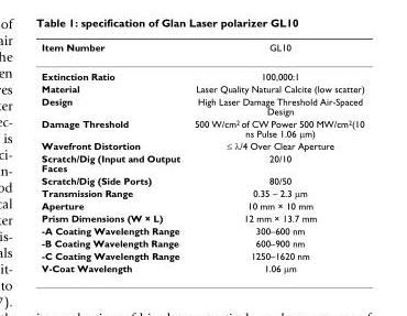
<table><thead><tr><td>Item Number</td><td>GL10</td></tr></thead><tbody><tr><td>Extinction Ratio</td><td>100,000:1</td></tr><tr><td>Material</td><td>Laser Quality Natural Calcite (low scatter)</td></tr><tr><td>Design</td><td>High Laser Damage Threshold Air-Spaced Design</td></tr><tr><td>Damage Threshold</td><td>500 W/cm<sup>2</sup> of CW Power 500 MW/cm<sup>2</sup>(10 ns Pulse 1.06 μm)</td></tr><tr><td>Wavefront Distortion</td><td>≤ λ/4 Over Clear Aperture</td></tr><tr><td>Scratch/Dig (Input and Output Faces</td><td>20/10</td></tr><tr><td>Scratch/Dig (Side Ports)</td><td>80/50</td></tr><tr><td>Transmission Range</td><td>0.35 – 2.3 μm</td></tr><tr><td>Aperture</td><td>10 mm × 10 mm</td></tr><tr><td>Prism Dimensions (W × L)</td><td>12 mm × 13.7 mm</td></tr><tr><td>-A Coating Wavelength Range</td><td>300–600 nm</td></tr><tr><td>-B Coating Wavelength Range</td><td>600–900 nm</td></tr><tr><td>-C Coating Wavelength Range</td><td>1250–1620 nm</td></tr><tr><td>V-Coat Wavelength</td><td>1.06 μm</td></tr></tbody></table>